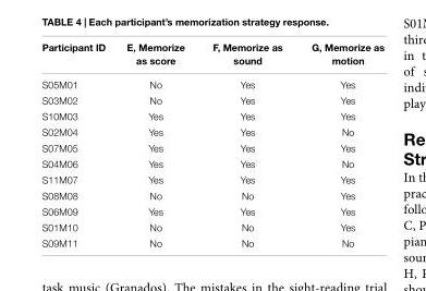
<table><thead><tr><td>Participant ID</td><td>E, Memorize as score</td><td>F, Memorize as sound</td><td>G, Memorize as motion</td></tr></thead><tbody><tr><td>S05M01</td><td>No</td><td>Yes</td><td>Yes</td></tr><tr><td>S03M02</td><td>No</td><td>Yes</td><td>Yes</td></tr><tr><td>S10M03</td><td>Yes</td><td>Yes</td><td>Yes</td></tr><tr><td>S02M04</td><td>Yes</td><td>Yes</td><td>No</td></tr><tr><td>S07M05</td><td>Yes</td><td>Yes</td><td>Yes</td></tr><tr><td>S04M06</td><td>Yes</td><td>Yes</td><td>No</td></tr><tr><td>S11M07</td><td>Yes</td><td>Yes</td><td>Yes</td></tr><tr><td>S08M08</td><td>No</td><td>No</td><td>Yes</td></tr><tr><td>S06M09</td><td>Yes</td><td>Yes</td><td>Yes</td></tr><tr><td>S01M10</td><td>No</td><td>No</td><td>Yes</td></tr><tr><td>S09M11</td><td>No</td><td>No</td><td>No</td></tr></tbody></table>